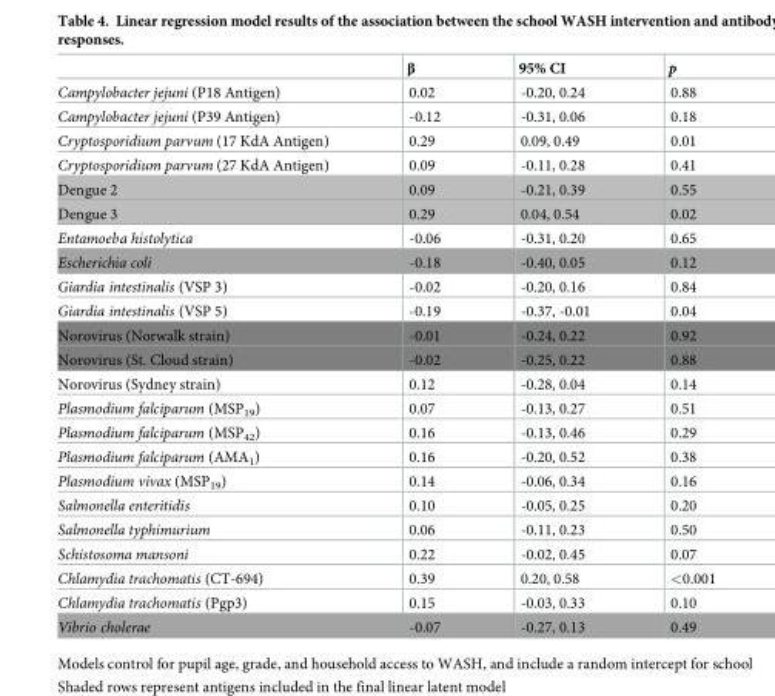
<table><thead><tr><td></td><td>β</td><td>95% CI</td><td>p</td></tr></thead><tbody><tr><td>Campylobacter jejuni (P18 Antigen)</td><td>0.02</td><td>-0.20, 0.24</td><td>0.88</td></tr><tr><td>Campylobacter jejuni (P39 Antigen)</td><td>-0.12</td><td>-0.31, 0.06</td><td>0.18</td></tr><tr><td>Cryptosporidium parvum (17 KdA Antigen)</td><td>0.29</td><td>0.09, 0.49</td><td>0.01</td></tr><tr><td>Cryptosporidium parvum (27 KdA Antigen)</td><td>0.09</td><td>-0.11, 0.28</td><td>0.41</td></tr><tr><td>Dengue 2</td><td>0.09</td><td>-0.21, 0.39</td><td>0.55</td></tr><tr><td>Dengue 3</td><td>0.29</td><td>0.04, 0.54</td><td>0.02</td></tr><tr><td>Entamoeba histolytica</td><td>-0.06</td><td>-0.31, 0.20</td><td>0.65</td></tr><tr><td>Escherichia coli</td><td>-0.18</td><td>-0.40, 0.05</td><td>0.12</td></tr><tr><td>Giardia intestinalis (VSP 3)</td><td>-0.02</td><td>-0.20, 0.16</td><td>0.84</td></tr><tr><td>Giardia intestinalis (VSP 5)</td><td>-0.19</td><td>-0.37, -0.01</td><td>0.04</td></tr><tr><td>Norovirus (Norwalk strain)</td><td>-0.01</td><td>-0.24, 0.22</td><td>0.92</td></tr><tr><td>Norovirus (St. Cloud strain)</td><td>-0.02</td><td>-0.25, 0.22</td><td>0.88</td></tr><tr><td>Norovirus (Sydney strain)</td><td>0.12</td><td>-0.28, 0.04</td><td>0.14</td></tr><tr><td>Plasmodium falciparum (MSP<sub>19</sub>)</td><td>0.07</td><td>-0.13, 0.27</td><td>0.51</td></tr><tr><td>Plasmodium falciparum (MSP<sub>42</sub>)</td><td>0.16</td><td>-0.13, 0.46</td><td>0.29</td></tr><tr><td>Plasmodium falciparum (AMA<sub>1</sub>)</td><td>0.16</td><td>-0.20, 0.52</td><td>0.38</td></tr><tr><td>Plasmodium vivax (MSP<sub>19</sub>)</td><td>0.14</td><td>-0.06, 0.34</td><td>0.16</td></tr><tr><td>Salmonella enteritidis</td><td>0.10</td><td>-0.05, 0.25</td><td>0.20</td></tr><tr><td>Salmonella typhimurium</td><td>0.06</td><td>-0.11, 0.23</td><td>0.50</td></tr><tr><td>Schistosoma mansoni</td><td>0.22</td><td>-0.02, 0.45</td><td>0.07</td></tr><tr><td>Chlamydia trachomatis (CT-694)</td><td>0.39</td><td>0.20, 0.58</td><td>&lt;0.001</td></tr><tr><td>Chlamydia trachomatis (Pgp3)</td><td>0.15</td><td>-0.03, 0.33</td><td>0.10</td></tr><tr><td>Vibrio cholerae</td><td>-0.07</td><td>-0.27, 0.13</td><td>0.49</td></tr></tbody></table>